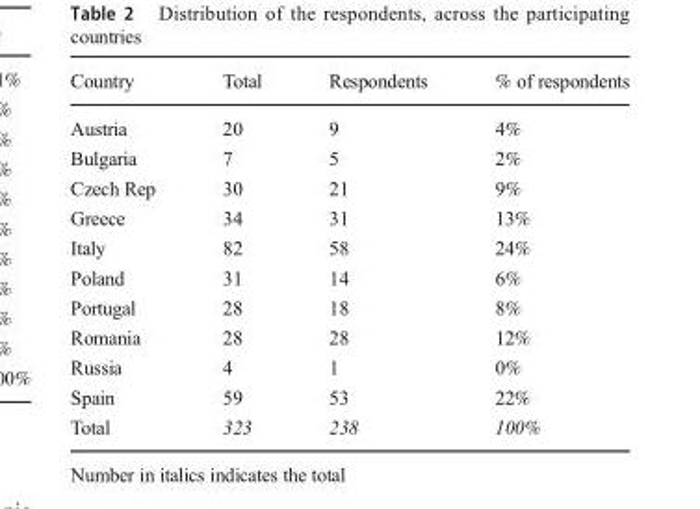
<table><thead><tr><td>Country</td><td>Total</td><td>Respondents</td><td>% of respondents</td></tr></thead><tbody><tr><td>Austria</td><td>20</td><td>9</td><td>4%</td></tr><tr><td>Bulgaria</td><td>7</td><td>5</td><td>2%</td></tr><tr><td>Czech Rep</td><td>30</td><td>21</td><td>9%</td></tr><tr><td>Greece</td><td>34</td><td>31</td><td>13%</td></tr><tr><td>Italy</td><td>82</td><td>58</td><td>24%</td></tr><tr><td>Poland</td><td>31</td><td>14</td><td>6%</td></tr><tr><td>Portugal</td><td>28</td><td>18</td><td>8%</td></tr><tr><td>Romania</td><td>28</td><td>28</td><td>12%</td></tr><tr><td>Russia</td><td>4</td><td>1</td><td>0%</td></tr><tr><td>Spain</td><td>59</td><td>53</td><td>22%</td></tr><tr><td>Total</td><td>323</td><td>238</td><td>100%</td></tr></tbody></table>